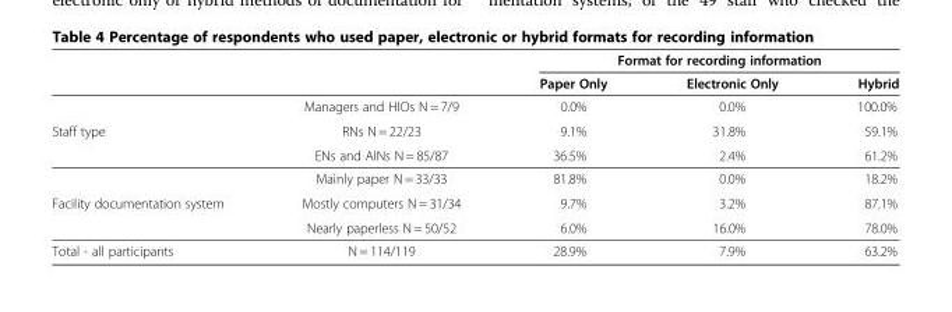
<table><thead><tr><td rowspan="2"></td><td rowspan="2"></td><td colspan="3">Format for recording information</td></tr><tr><td>Paper Only</td><td>Electronic Only</td><td>Hybrid</td></tr></thead><tbody><tr><td></td><td>Managers and HIOs N = 7/9</td><td>0.0%</td><td>0.0%</td><td>100.0%</td></tr><tr><td rowspan="3">Staff type</td><td>RNs N = 22/23</td><td>9.1%</td><td>31.8%</td><td>59.1%</td></tr><tr><td>ENs and AINs N = 85/87</td><td>36.5%</td><td>2.4%</td><td>61.2%</td></tr><tr><td>Mainly paper N = 33/33</td><td>81.8%</td><td>0.0%</td><td>18.2%</td></tr><tr><td rowspan="2">Facility documentation system</td><td>Mostly computers N = 31/34</td><td>9.7%</td><td>3.2%</td><td>87.1%</td></tr><tr><td>Nearly paperless N = 50/52</td><td>6.0%</td><td>16.0%</td><td>78.0%</td></tr><tr><td>Total - all participants</td><td>N = 114/119</td><td>28.9%</td><td>7.9%</td><td>63.2%</td></tr></tbody></table>